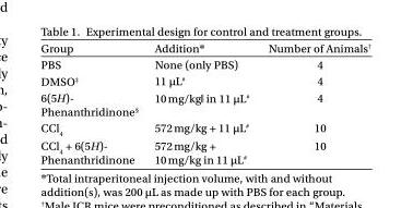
<table><thead><tr><td>Group</td><td>Addition*</td><td>Number of Animals†</td></tr></thead><tbody><tr><td>PBS</td><td>None (only PBS)</td><td>4</td></tr><tr><td>DMSO‡</td><td>11 µL#</td><td>4</td></tr><tr><td>6(5H)- Phenanthridinone§</td><td>10 mg/kg‖ in 11 µL#</td><td>4</td></tr><tr><td>CCl<sub>4</sub></td><td>572 mg/kg + 11 µL#</td><td>10</td></tr><tr><td>CCl<sub>4</sub> + 6(5H)- Phenanthridinone</td><td>572 mg/kg + 10 mg/kg in 11 µL#</td><td>10</td></tr></tbody></table>